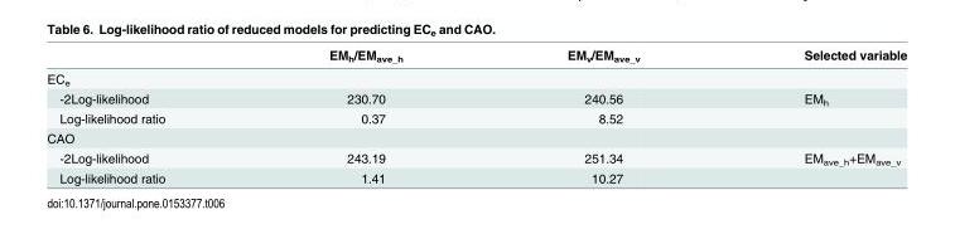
<table><thead><tr><td></td><td>EM<sub>h</sub>/EM<sub>ave_h</sub></td><td>EM<sub>v</sub>/EM<sub>ave_v</sub></td><td>Selected variable</td></tr></thead><tbody><tr><td colspan="4">EC<sub>e</sub></td></tr><tr><td>-2Log-likelihood</td><td>230.70</td><td>240.56</td><td>EM<sub>h</sub></td></tr><tr><td>Log-likelihood ratio</td><td>0.37</td><td>8.52</td><td></td></tr><tr><td colspan="4">CAO</td></tr><tr><td>-2Log-likelihood</td><td>243.19</td><td>251.34</td><td>EM<sub>ave_h</sub>+EM<sub>ave_v</sub></td></tr><tr><td>Log-likelihood ratio</td><td>1.41</td><td>10.27</td><td></td></tr></tbody></table>